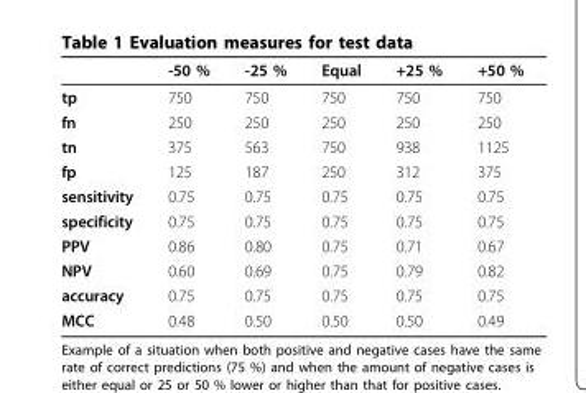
<table><thead><tr><td></td><td>-50 %</td><td>-25 %</td><td>Equal</td><td>+25 %</td><td>+50 %</td></tr></thead><tbody><tr><td>tp</td><td>750</td><td>750</td><td>750</td><td>750</td><td>750</td></tr><tr><td>fn</td><td>250</td><td>250</td><td>250</td><td>250</td><td>250</td></tr><tr><td>tn</td><td>375</td><td>563</td><td>750</td><td>938</td><td>1125</td></tr><tr><td>fp</td><td>125</td><td>187</td><td>250</td><td>312</td><td>375</td></tr><tr><td>sensitivity</td><td>0.75</td><td>0.75</td><td>0.75</td><td>0.75</td><td>0.75</td></tr><tr><td>specificity</td><td>0.75</td><td>0.75</td><td>0.75</td><td>0.75</td><td>0.75</td></tr><tr><td>PPV</td><td>0.86</td><td>0.80</td><td>0.75</td><td>0.71</td><td>0.67</td></tr><tr><td>NPV</td><td>0.60</td><td>0.69</td><td>0.75</td><td>0.79</td><td>0.82</td></tr><tr><td>accuracy</td><td>0.75</td><td>0.75</td><td>0.75</td><td>0.75</td><td>0.75</td></tr><tr><td>MCC</td><td>0.48</td><td>0.50</td><td>0.50</td><td>0.50</td><td>0.49</td></tr></tbody></table>